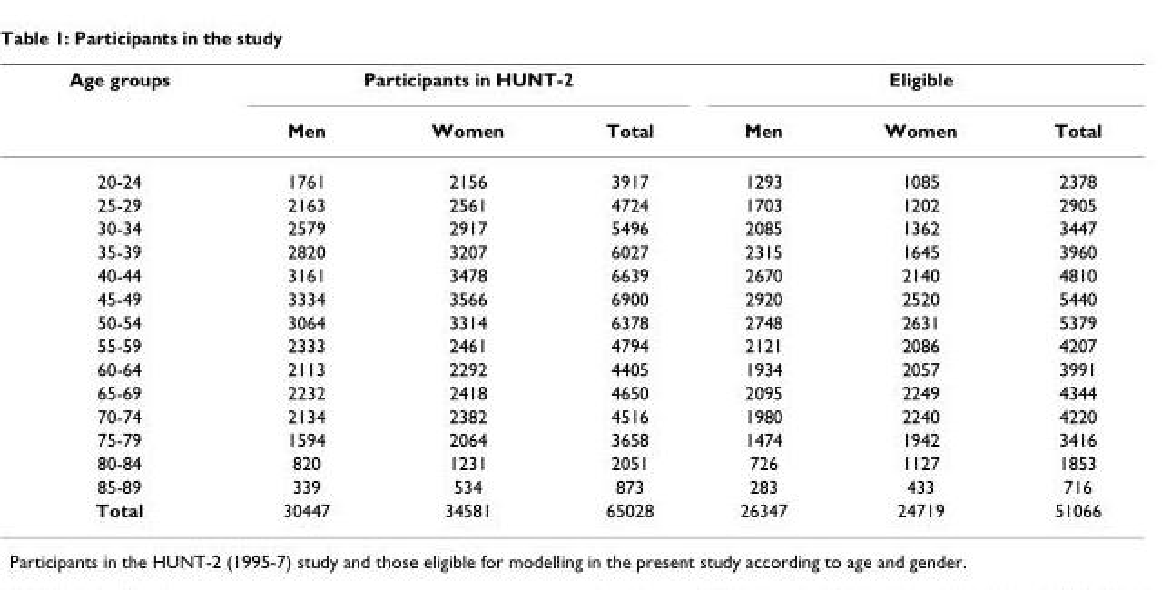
<table><thead><tr><td rowspan="2">Age groups</td><td colspan="3">Participants in HUNT-2</td><td colspan="3">Eligible</td></tr><tr><td>Men</td><td>Women</td><td>Total</td><td>Men</td><td>Women</td><td>Total</td></tr></thead><tbody><tr><td>20-24</td><td>1761</td><td>2156</td><td>3917</td><td>1293</td><td>1085</td><td>2378</td></tr><tr><td>25-29</td><td>2163</td><td>2561</td><td>4724</td><td>1703</td><td>1202</td><td>2905</td></tr><tr><td>30-34</td><td>2579</td><td>2917</td><td>5496</td><td>2085</td><td>1362</td><td>3447</td></tr><tr><td>35-39</td><td>2820</td><td>3207</td><td>6027</td><td>2315</td><td>1645</td><td>3960</td></tr><tr><td>40-44</td><td>3161</td><td>3478</td><td>6639</td><td>2670</td><td>2140</td><td>4810</td></tr><tr><td>45-49</td><td>3334</td><td>3566</td><td>6900</td><td>2920</td><td>2520</td><td>5440</td></tr><tr><td>50-54</td><td>3064</td><td>3314</td><td>6378</td><td>2748</td><td>2631</td><td>5379</td></tr><tr><td>55-59</td><td>2333</td><td>2461</td><td>4794</td><td>2121</td><td>2086</td><td>4207</td></tr><tr><td>60-64</td><td>2113</td><td>2292</td><td>4405</td><td>1934</td><td>2057</td><td>3991</td></tr><tr><td>65-69</td><td>2232</td><td>2418</td><td>4650</td><td>2095</td><td>2249</td><td>4344</td></tr><tr><td>70-74</td><td>2134</td><td>2382</td><td>4516</td><td>1980</td><td>2240</td><td>4220</td></tr><tr><td>75-79</td><td>1594</td><td>2064</td><td>3658</td><td>1474</td><td>1942</td><td>3416</td></tr><tr><td>80-84</td><td>820</td><td>1231</td><td>2051</td><td>726</td><td>1127</td><td>1853</td></tr><tr><td>85-89</td><td>339</td><td>534</td><td>873</td><td>283</td><td>433</td><td>716</td></tr><tr><td>Total</td><td>30447</td><td>34581</td><td>65028</td><td>26347</td><td>24719</td><td>51066</td></tr></tbody></table>